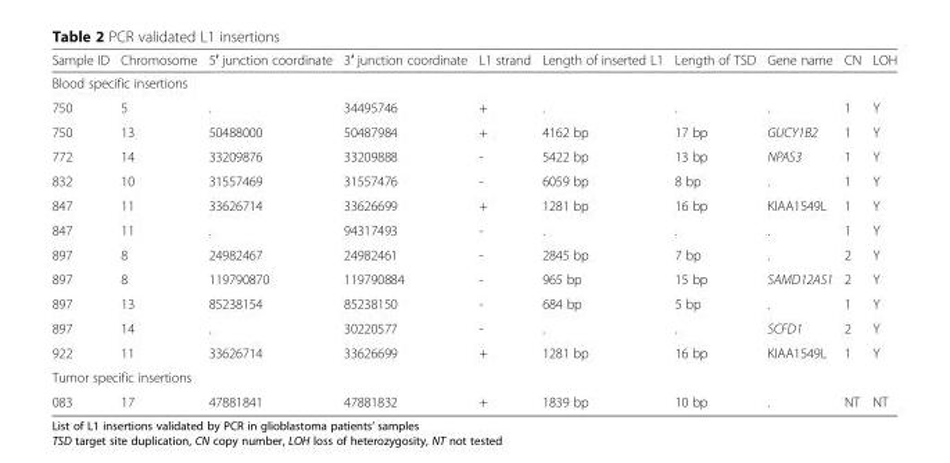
<table><thead><tr><td>Sample ID</td><td>Chromosome</td><td>5′ junction coordinate</td><td>3′ junction coordinate</td><td>L1 strand</td><td>Length of inserted L1</td><td>Length of TSD</td><td>Gene name</td><td>CN</td><td>LOH</td></tr></thead><tbody><tr><td colspan="10">Blood specific insertions</td></tr><tr><td>750</td><td>5</td><td>.</td><td>34495746</td><td>+</td><td>.</td><td>.</td><td>.</td><td>1</td><td>Y</td></tr><tr><td>750</td><td>13</td><td>50488000</td><td>50487984</td><td>+</td><td>4162 bp</td><td>17 bp</td><td>GUCY1B2</td><td>1</td><td>Y</td></tr><tr><td>772</td><td>14</td><td>33209876</td><td>33209888</td><td>-</td><td>5422 bp</td><td>13 bp</td><td>NPAS3</td><td>1</td><td>Y</td></tr><tr><td>832</td><td>10</td><td>31557469</td><td>31557476</td><td>-</td><td>6059 bp</td><td>8 bp</td><td>.</td><td>1</td><td>Y</td></tr><tr><td>847</td><td>11</td><td>33626714</td><td>33626699</td><td>+</td><td>1281 bp</td><td>16 bp</td><td>KIAA1549L</td><td>1</td><td>Y</td></tr><tr><td>847</td><td>11</td><td>.</td><td>94317493</td><td>-</td><td>.</td><td>.</td><td>.</td><td>1</td><td>Y</td></tr><tr><td>897</td><td>8</td><td>24982467</td><td>24982461</td><td>-</td><td>2845 bp</td><td>7 bp</td><td>.</td><td>2</td><td>Y</td></tr><tr><td>897</td><td>8</td><td>119790870</td><td>119790884</td><td>-</td><td>965 bp</td><td>15 bp</td><td>SAMD12AS1</td><td>2</td><td>Y</td></tr><tr><td>897</td><td>13</td><td>85238154</td><td>85238150</td><td>-</td><td>684 bp</td><td>5 bp</td><td>.</td><td>1</td><td>Y</td></tr><tr><td>897</td><td>14</td><td>.</td><td>30220577</td><td>-</td><td>.</td><td>.</td><td>SCFD1</td><td>2</td><td>Y</td></tr><tr><td>922</td><td>11</td><td>33626714</td><td>33626699</td><td>+</td><td>1281 bp</td><td>16 bp</td><td>KIAA1549L</td><td>1</td><td>Y</td></tr><tr><td colspan="10">Tumor specific insertions</td></tr><tr><td>083</td><td>17</td><td>47881841</td><td>47881832</td><td>+</td><td>1839 bp</td><td>10 bp</td><td>.</td><td>NT</td><td>NT</td></tr></tbody></table>